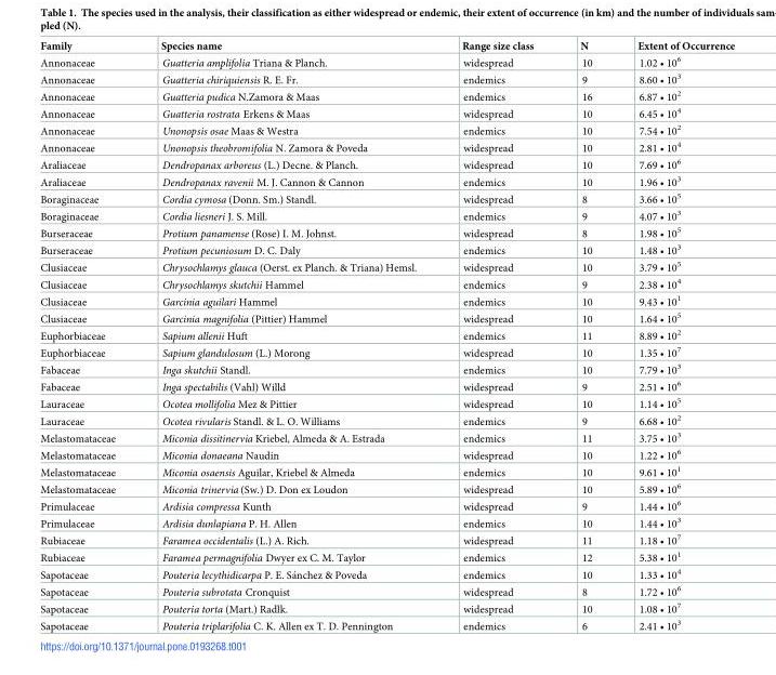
<table><thead><tr><td>Family</td><td>Species name</td><td>Range size class</td><td>N</td><td>Extent of Occurrence</td></tr></thead><tbody><tr><td>Annonaceae</td><td>Guatteria amplifolia Triana &amp; Planch.</td><td>widespread</td><td>10</td><td>1.02 • 10<sup>6</sup></td></tr><tr><td>Annonaceae</td><td>Guatteria chiriquiensis R. E. Fr.</td><td>endemics</td><td>9</td><td>8.60 • 10<sup>3</sup></td></tr><tr><td>Annonaceae</td><td>Guatteria pudica N.Zamora &amp; Maas</td><td>endemics</td><td>16</td><td>6.87 • 10<sup>2</sup></td></tr><tr><td>Annonaceae</td><td>Guatteria rostrata Erkens &amp; Maas</td><td>widespread</td><td>10</td><td>6.45 • 10<sup>4</sup></td></tr><tr><td>Annonaceae</td><td>Unonopsis osae Maas &amp; Westra</td><td>endemics</td><td>10</td><td>7.54 • 10<sup>2</sup></td></tr><tr><td>Annonaceae</td><td>Unonopsis theobromifolia N. Zamora &amp; Poveda</td><td>widespread</td><td>10</td><td>2.81 • 10<sup>4</sup></td></tr><tr><td>Araliaceae</td><td>Dendropanax arboreus (L.) Decne. &amp; Planch.</td><td>widespread</td><td>10</td><td>7.69 • 10<sup>6</sup></td></tr><tr><td>Araliaceae</td><td>Dendropanax ravenii M. J. Cannon &amp; Cannon</td><td>endemics</td><td>10</td><td>1.96 • 10<sup>3</sup></td></tr><tr><td>Boraginaceae</td><td>Cordia cymosa (Donn. Sm.) Standl.</td><td>widespread</td><td>8</td><td>3.66 • 10<sup>5</sup></td></tr><tr><td>Boraginaceae</td><td>Cordia liesneri J. S. Mill.</td><td>endemics</td><td>9</td><td>4.07 • 10<sup>3</sup></td></tr><tr><td>Burseraceae</td><td>Protium panamense (Rose) I. M. Johnst.</td><td>widespread</td><td>8</td><td>1.98 • 10<sup>5</sup></td></tr><tr><td>Burseraceae</td><td>Protium pecuniosum D. C. Daly</td><td>endemics</td><td>10</td><td>1.48 • 10<sup>3</sup></td></tr><tr><td>Clusiaceae</td><td>Chrysochlamys glauca (Oerst. ex Planch. &amp; Triana) Hemsl.</td><td>widespread</td><td>10</td><td>3.79 • 10<sup>5</sup></td></tr><tr><td>Clusiaceae</td><td>Chrysochlamys skutchii Hammel</td><td>endemics</td><td>9</td><td>2.38 • 10<sup>4</sup></td></tr><tr><td>Clusiaceae</td><td>Garcinia aguilari Hammel</td><td>endemics</td><td>10</td><td>9.43 • 10<sup>1</sup></td></tr><tr><td>Clusiaceae</td><td>Garcinia magnifolia (Pittier) Hammel</td><td>widespread</td><td>10</td><td>1.64 • 10<sup>5</sup></td></tr><tr><td>Euphorbiaceae</td><td>Sapium allenii Huft</td><td>endemics</td><td>11</td><td>8.89 • 10<sup>2</sup></td></tr><tr><td>Euphorbiaceae</td><td>Sapium glandulosum (L.) Morong</td><td>widespread</td><td>10</td><td>1.35 • 10<sup>7</sup></td></tr><tr><td>Fabaceae</td><td>Inga skutchii Standl.</td><td>endemics</td><td>10</td><td>7.79 • 10<sup>3</sup></td></tr><tr><td>Fabaceae</td><td>Inga spectabilis (Vahl) Willd</td><td>widespread</td><td>9</td><td>2.51 • 10<sup>6</sup></td></tr><tr><td>Lauraceae</td><td>Ocotea mollifolia Mez &amp; Pittier</td><td>widespread</td><td>10</td><td>1.14 • 10<sup>5</sup></td></tr><tr><td>Lauraceae</td><td>Ocotea rivularis Standl. &amp; L. O. Williams</td><td>endemics</td><td>9</td><td>6.68 • 10<sup>2</sup></td></tr><tr><td>Melastomataceae</td><td>Miconia dissitinervia Kriebel, Almeda &amp; A. Estrada</td><td>endemics</td><td>11</td><td>3.75 • 10<sup>3</sup></td></tr><tr><td>Melastomataceae</td><td>Miconia donaeana Naudin</td><td>widespread</td><td>10</td><td>1.22 • 10<sup>6</sup></td></tr><tr><td>Melastomataceae</td><td>Miconia osaensis Aguilar, Kriebel &amp; Almeda</td><td>endemics</td><td>10</td><td>9.61 • 10<sup>1</sup></td></tr><tr><td>Melastomataceae</td><td>Miconia trinervia (Sw.) D. Don ex Loudon</td><td>widespread</td><td>10</td><td>5.89 • 10<sup>6</sup></td></tr><tr><td>Primulaceae</td><td>Ardisia compressa Kunth</td><td>widespread</td><td>9</td><td>1.44 • 10<sup>6</sup></td></tr><tr><td>Primulaceae</td><td>Ardisia dunlapiana P. H. Allen</td><td>endemics</td><td>10</td><td>1.44 • 10<sup>3</sup></td></tr><tr><td>Rubiaceae</td><td>Faramea occidentalis (L.) A. Rich.</td><td>widespread</td><td>11</td><td>1.18 • 10<sup>7</sup></td></tr><tr><td>Rubiaceae</td><td>Faramea permagnifolia Dwyer ex C. M. Taylor</td><td>endemics</td><td>12</td><td>5.38 • 10<sup>1</sup></td></tr><tr><td>Sapotaceae</td><td>Pouteria lecythidicarpa P. E. Sa´nchez &amp; Poveda</td><td>endemics</td><td>10</td><td>1.33 • 10<sup>4</sup></td></tr><tr><td>Sapotaceae</td><td>Pouteria subrotata Cronquist</td><td>widespread</td><td>8</td><td>1.72 • 10<sup>6</sup></td></tr><tr><td>Sapotaceae</td><td>Pouteria torta (Mart.) Radlk.</td><td>widespread</td><td>10</td><td>1.08 • 10<sup>7</sup></td></tr><tr><td>Sapotaceae</td><td>Pouteria triplarifolia C. K. Allen ex T. D. Pennington</td><td>endemics</td><td>6</td><td>2.41 • 10<sup>3</sup></td></tr></tbody></table>